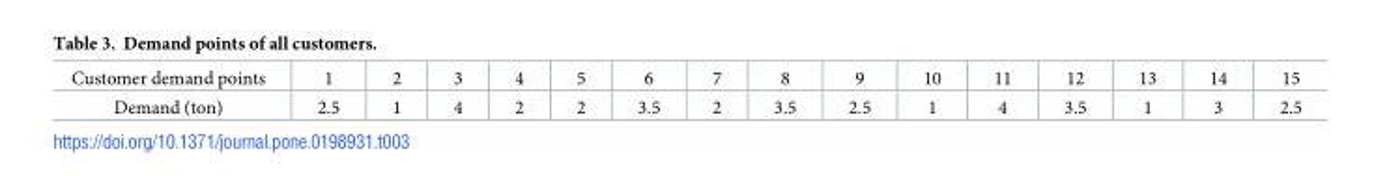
<table><tbody><tr><td>Customer demand points</td><td>1</td><td>2</td><td>3</td><td>4</td><td>5</td><td>6</td><td>7</td><td>8</td><td>9</td><td>10</td><td>11</td><td>12</td><td>13</td><td>14</td><td>15</td></tr><tr><td>Demand (ton)</td><td>2.5</td><td>1</td><td>4</td><td>2</td><td>2</td><td>3.5</td><td>2</td><td>3.5</td><td>2.5</td><td>1</td><td>4</td><td>3.5</td><td>1</td><td>3</td><td>2.5</td></tr></tbody></table>